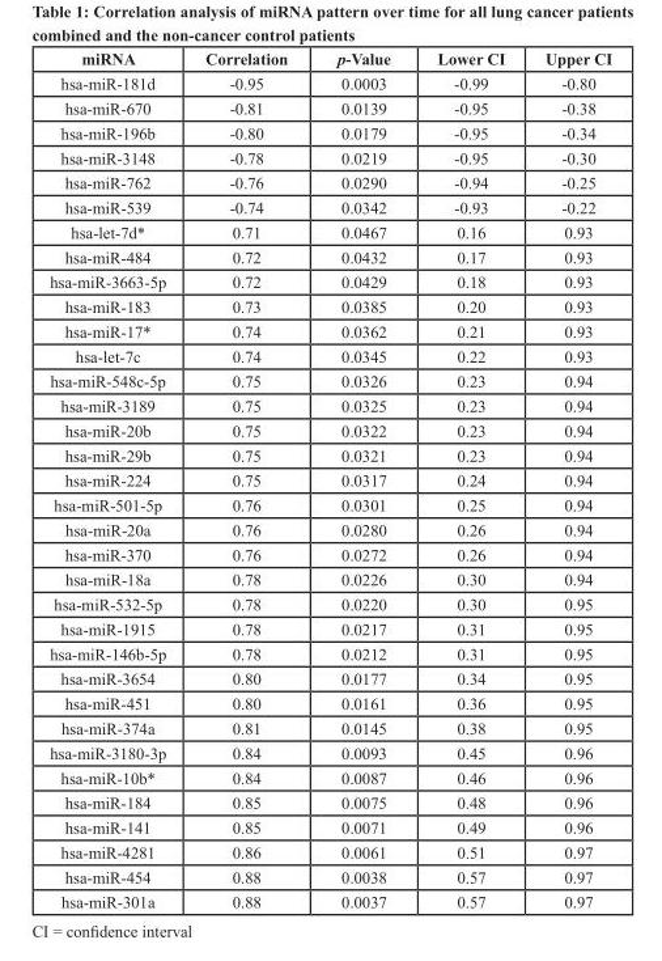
<table><thead><tr><td>miRNA</td><td>Correlation</td><td>p-Value</td><td>Lower CI</td><td>Upper CI</td></tr></thead><tbody><tr><td>hsa-miR-181d</td><td>-0.95</td><td>0.0003</td><td>-0.99</td><td>-0.80</td></tr><tr><td>hsa-miR-670</td><td>-0.81</td><td>0.0139</td><td>-0.95</td><td>-0.38</td></tr><tr><td>hsa-miR-196b</td><td>-0.80</td><td>0.0179</td><td>-0.95</td><td>-0.34</td></tr><tr><td>hsa-miR-3148</td><td>-0.78</td><td>0.0219</td><td>-0.95</td><td>-0.30</td></tr><tr><td>hsa-miR-762</td><td>-0.76</td><td>0.0290</td><td>-0.94</td><td>-0.25</td></tr><tr><td>hsa-miR-539</td><td>-0.74</td><td>0.0342</td><td>-0.93</td><td>-0.22</td></tr><tr><td>hsa-let-7d*</td><td>0.71</td><td>0.0467</td><td>0.16</td><td>0.93</td></tr><tr><td>hsa-miR-484</td><td>0.72</td><td>0.0432</td><td>0.17</td><td>0.93</td></tr><tr><td>hsa-miR-3663-5p</td><td>0.72</td><td>0.0429</td><td>0.18</td><td>0.93</td></tr><tr><td>hsa-miR-183</td><td>0.73</td><td>0.0385</td><td>0.20</td><td>0.93</td></tr><tr><td>hsa-miR-17*</td><td>0.74</td><td>0.0362</td><td>0.21</td><td>0.93</td></tr><tr><td>hsa-let-7c</td><td>0.74</td><td>0.0345</td><td>0.22</td><td>0.93</td></tr><tr><td>hsa-miR-548c-5p</td><td>0.75</td><td>0.0326</td><td>0.23</td><td>0.94</td></tr><tr><td>hsa-miR-3189</td><td>0.75</td><td>0.0325</td><td>0.23</td><td>0.94</td></tr><tr><td>hsa-miR-20b</td><td>0.75</td><td>0.0322</td><td>0.23</td><td>0.94</td></tr><tr><td>hsa-miR-29b</td><td>0.75</td><td>0.0321</td><td>0.23</td><td>0.94</td></tr><tr><td>hsa-miR-224</td><td>0.75</td><td>0.0317</td><td>0.24</td><td>0.94</td></tr><tr><td>hsa-miR-501-5p</td><td>0.76</td><td>0.0301</td><td>0.25</td><td>0.94</td></tr><tr><td>hsa-miR-20a</td><td>0.76</td><td>0.0280</td><td>0.26</td><td>0.94</td></tr><tr><td>hsa-miR-370</td><td>0.76</td><td>0.0272</td><td>0.26</td><td>0.94</td></tr><tr><td>hsa-miR-18a</td><td>0.78</td><td>0.0226</td><td>0.30</td><td>0.94</td></tr><tr><td>hsa-miR-532-5p</td><td>0.78</td><td>0.0220</td><td>0.30</td><td>0.95</td></tr><tr><td>hsa-miR-1915</td><td>0.78</td><td>0.0217</td><td>0.31</td><td>0.95</td></tr><tr><td>hsa-miR-146b-5p</td><td>0.78</td><td>0.0212</td><td>0.31</td><td>0.95</td></tr><tr><td>hsa-miR-3654</td><td>0.80</td><td>0.0177</td><td>0.34</td><td>0.95</td></tr><tr><td>hsa-miR-451</td><td>0.80</td><td>0.0161</td><td>0.36</td><td>0.95</td></tr><tr><td>hsa-miR-374a</td><td>0.81</td><td>0.0145</td><td>0.38</td><td>0.95</td></tr><tr><td>hsa-miR-3180-3p</td><td>0.84</td><td>0.0093</td><td>0.45</td><td>0.96</td></tr><tr><td>hsa-miR-10b*</td><td>0.84</td><td>0.0087</td><td>0.46</td><td>0.96</td></tr><tr><td>hsa-miR-184</td><td>0.85</td><td>0.0075</td><td>0.48</td><td>0.96</td></tr><tr><td>hsa-miR-141</td><td>0.85</td><td>0.0071</td><td>0.49</td><td>0.96</td></tr><tr><td>hsa-miR-4281</td><td>0.86</td><td>0.0061</td><td>0.51</td><td>0.97</td></tr><tr><td>hsa-miR-454</td><td>0.88</td><td>0.0038</td><td>0.57</td><td>0.97</td></tr><tr><td>hsa-miR-301a</td><td>0.88</td><td>0.0037</td><td>0.57</td><td>0.97</td></tr></tbody></table>